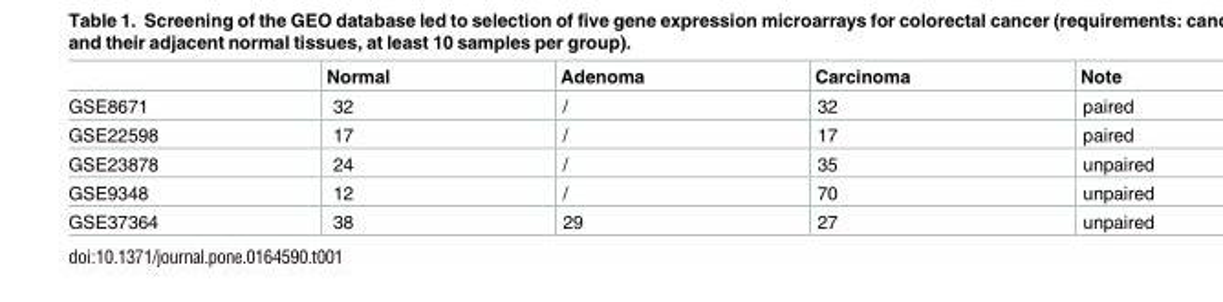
<table><thead><tr><td></td><td>Normal</td><td>Adenoma</td><td>Carcinoma</td><td>Note</td></tr></thead><tbody><tr><td>GSE8671</td><td>32</td><td>/</td><td>32</td><td>paired</td></tr><tr><td>GSE22598</td><td>17</td><td>/</td><td>17</td><td>paired</td></tr><tr><td>GSE23878</td><td>24</td><td>/</td><td>35</td><td>unpaired</td></tr><tr><td>GSE9348</td><td>12</td><td>/</td><td>70</td><td>unpaired</td></tr><tr><td>GSE37364</td><td>38</td><td>29</td><td>27</td><td>unpaired</td></tr></tbody></table>